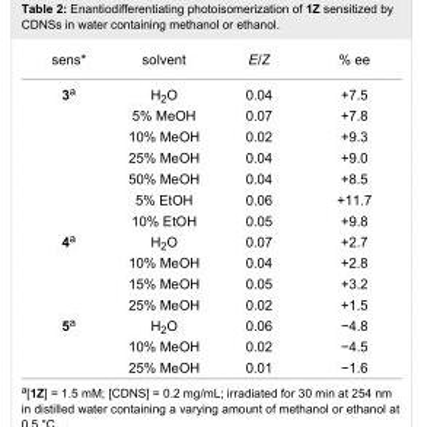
<table><tbody><tr><td>sens*</td><td>solvent</td><td>E/Z</td><td>% ee</td></tr><tr><td rowspan="7">3<sup>a</sup></td><td>H<sub>2</sub>O</td><td>0.04</td><td>+7.5</td></tr><tr><td>5% MeOH</td><td>0.07</td><td>+7.8</td></tr><tr><td>10% MeOH</td><td>0.02</td><td>+9.3</td></tr><tr><td>25% MeOH</td><td>0.04</td><td>+9.0</td></tr><tr><td>50% MeOH</td><td>0.04</td><td>+8.5</td></tr><tr><td>5% EtOH</td><td>0.06</td><td>+11.7</td></tr><tr><td>10% EtOH</td><td>0.05</td><td>+9.8</td></tr><tr><td rowspan="4">4<sup>a</sup></td><td>H<sub>2</sub>O</td><td>0.07</td><td>+2.7</td></tr><tr><td>10% MeOH</td><td>0.04</td><td>+2.8</td></tr><tr><td>15% MeOH</td><td>0.05</td><td>+3.2</td></tr><tr><td>25% MeOH</td><td>0.02</td><td>+1.5</td></tr><tr><td rowspan="3">5<sup>a</sup></td><td>H<sub>2</sub>O</td><td>0.06</td><td>−4.8</td></tr><tr><td>10% MeOH</td><td>0.02</td><td>−4.5</td></tr><tr><td>25% MeOH</td><td>0.01</td><td>−1.6</td></tr></tbody></table>